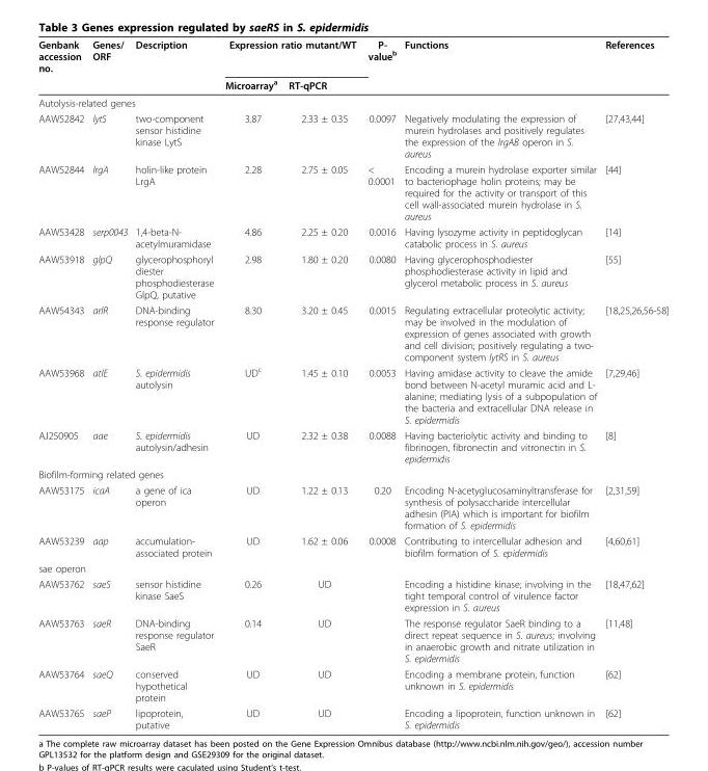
<table><thead><tr><td rowspan="2">Genbank accession no.</td><td rowspan="2">Genes/ ORF</td><td rowspan="2">Description</td><td colspan="2">Expression ratio mutant/WT</td><td rowspan="2">P- value<sup>b</sup></td><td rowspan="2">Functions</td><td rowspan="2">References</td></tr><tr><td>Microarray<sup>a</sup></td><td>RT-qPCR</td></tr></thead><tbody><tr><td colspan="8">Autolysis-related genes</td></tr><tr><td>AAW52842</td><td>lytS</td><td>two-component sensor histidine kinase LytS</td><td>3.87</td><td>2.33 ± 0.35</td><td>0.0097</td><td>Negatively modulating the expression of murein hydrolases and positively regulates the expression of the lrgAB operon in S. aureus</td><td>[27,43,44]</td></tr><tr><td>AAW52844</td><td>lrgA</td><td>holin-like protein LrgA</td><td>2.28</td><td>2.75 ± 0.05</td><td>&lt; 0.0001</td><td>Encoding a murein hydrolase exporter similar to bacteriophage holin proteins; may be required for the activity or transport of this cell wall-associated murein hydrolase in S. aureus</td><td>[44]</td></tr><tr><td>AAW53428</td><td>serp0043</td><td>1,4-beta-N- acetylmuramidase</td><td>4.86</td><td>2.25 ± 0.20</td><td>0.0016</td><td>Having lysozyme activity in peptidoglycan catabolic process in S. aureus</td><td>[14]</td></tr><tr><td>AAW53918</td><td>glpQ</td><td>glycerophosphoryl diester phosphodiesterase GlpQ, putative</td><td>2.98</td><td>1.80 ± 0.20</td><td>0.0080</td><td>Having glycerophosphodiester phosphodiesterase activity in lipid and glycerol metabolic process in S. aureus</td><td>[55]</td></tr><tr><td>AAW54343</td><td>arlR</td><td>DNA-binding response regulator</td><td>8.30</td><td>3.20 ± 0.45</td><td>0.0015</td><td>Regulating extracellular proteolytic activity; may be involved in the modulation of expression of genes associated with growth and cell division; positively regulating a two- component system lytRS in S. aureus</td><td>[18,25,26,56-58]</td></tr><tr><td>AAW53968</td><td>atlE</td><td>S. epidermidis autolysin</td><td>UD<sup>c</sup></td><td>1.45 ± 0.10</td><td>0.0053</td><td>Having amidase activity to cleave the amide bond between N-acetyl muramic acid and L- alanine; mediating lysis of a subpopulation of the bacteria and extracellular DNA release in S. epidermidis</td><td>[7,29,46]</td></tr><tr><td>AJ250905</td><td>aae</td><td>S. epidermidis autolysin/adhesin</td><td>UD</td><td>2.32 ± 0.38</td><td>0.0088</td><td>Having bacteriolytic activity and binding to fibrinogen, fibronectin and vitronectin in S. epidermidis</td><td>[8]</td></tr><tr><td colspan="8">Biofilm-forming related genes</td></tr><tr><td>AAW53175</td><td>icaA</td><td>a gene of ica operon</td><td>UD</td><td>1.22 ± 0.13</td><td>0.20</td><td>Encoding N-acetyglucosaminyltransferase for synthesis of polysaccharide intercellular adhesin (PIA) which is important for biofilm formation of S. epidermidis</td><td>[2,31,59]</td></tr><tr><td>AAW53239</td><td>aap</td><td>accumulation- associated protein</td><td>UD</td><td>1.62 ± 0.06</td><td>0.0008</td><td>Contributing to intercellular adhesion and biofilm formation of S. epidermidis</td><td>[4,60,61]</td></tr><tr><td colspan="8">sae operon</td></tr><tr><td>AAW53762</td><td>saeS</td><td>sensor histidine kinase SaeS</td><td>0.26</td><td>UD</td><td></td><td>Encoding a histidine kinase; involving in the tight temporal control of virulence factor expression in S. aureus</td><td>[18,47,62]</td></tr><tr><td>AAW53763</td><td>saeR</td><td>DNA-binding response regulator SaeR</td><td>0.14</td><td>UD</td><td></td><td>The response regulator SaeR binding to a direct repeat sequence in S. aureus; involving in anaerobic growth and nitrate utilization in S. epidermidis</td><td>[11,48]</td></tr><tr><td>AAW53764</td><td>saeQ</td><td>conserved hypothetical protein</td><td>UD</td><td>UD</td><td></td><td>Encoding a membrane protein, function unknown in S. epidermidis</td><td>[62]</td></tr><tr><td>AAW53765</td><td>saeP</td><td>lipoprotein, putative</td><td>UD</td><td>UD</td><td></td><td>Encoding a lipoprotein, function unknown in S. epidermidis</td><td>[62]</td></tr></tbody></table>